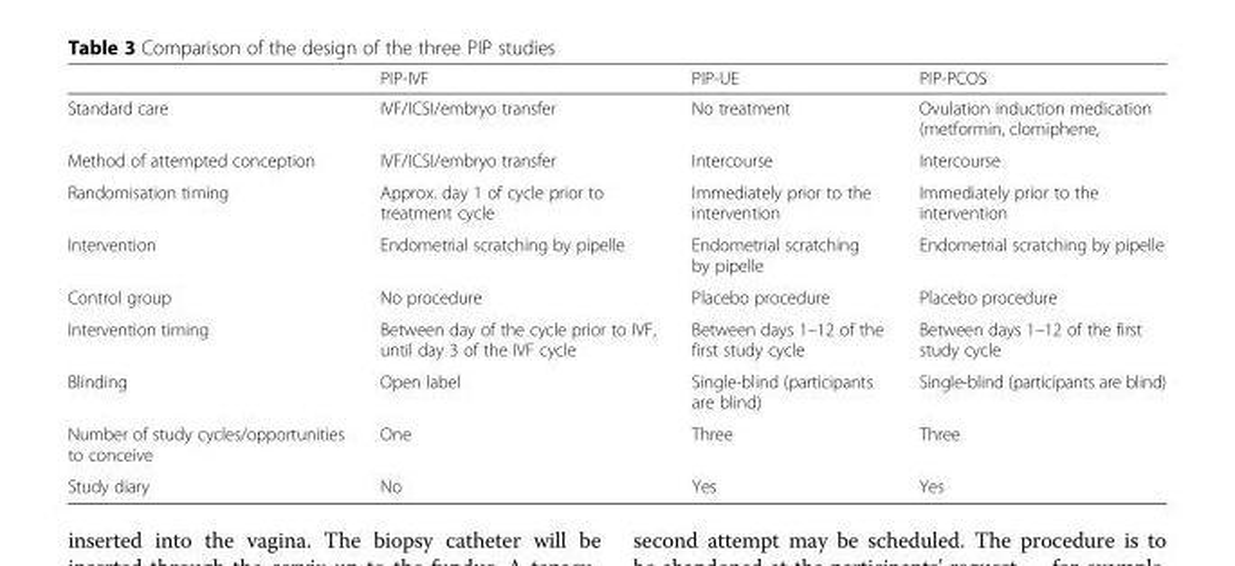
<table><thead><tr><td></td><td>PIP-IVF</td><td>PIP-UE</td><td>PIP-PCOS</td></tr></thead><tbody><tr><td>Standard care</td><td>IVF/ICSI/embryo transfer</td><td>No treatment</td><td>Ovulation induction medication (metformin, clomiphene,</td></tr><tr><td>Method of attempted conception</td><td>IVF/ICSI/embryo transfer</td><td>Intercourse</td><td>Intercourse</td></tr><tr><td>Randomisation timing</td><td>Approx. day 1 of cycle prior to treatment cycle</td><td>Immediately prior to the intervention</td><td>Immediately prior to the intervention</td></tr><tr><td>Intervention</td><td>Endometrial scratching by pipelle</td><td>Endometrial scratching by pipelle</td><td>Endometrial scratching by pipelle</td></tr><tr><td>Control group</td><td>No procedure</td><td>Placebo procedure</td><td>Placebo procedure</td></tr><tr><td>Intervention timing</td><td>Between day of the cycle prior to IVF, until day 3 of the IVF cycle</td><td>Between days 1–12 of the first study cycle</td><td>Between days 1–12 of the first study cycle</td></tr><tr><td>Blinding</td><td>Open label</td><td>Single-blind (participants are blind)</td><td>Single-blind (participants are blind)</td></tr><tr><td>Number of study cycles/opportunities to conceive</td><td>One</td><td>Three</td><td>Three</td></tr><tr><td>Study diary</td><td>No</td><td>Yes</td><td>Yes</td></tr></tbody></table>